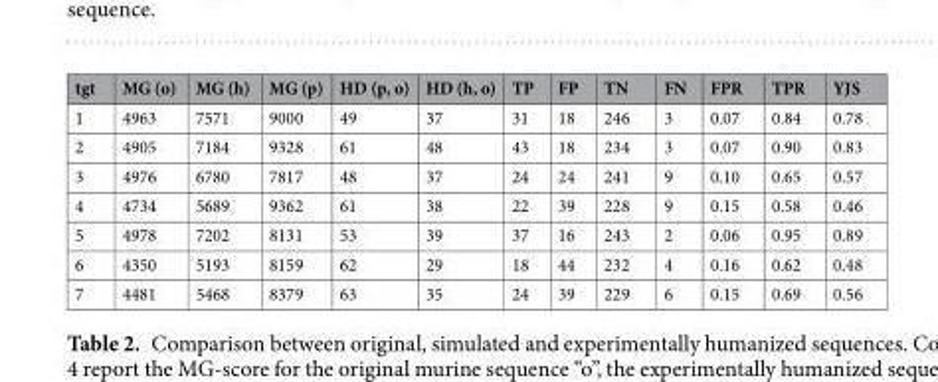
<table><thead><tr><td>tgt</td><td>MG (o)</td><td>MG (h)</td><td>MG (p)</td><td>HD (p, o)</td><td>HD (h, o)</td><td>TP</td><td>FP</td><td>TN</td><td>FN</td><td>FPR</td><td>TPR</td><td>YJS</td></tr></thead><tbody><tr><td>1</td><td>4963</td><td>7571</td><td>9000</td><td>49</td><td>37</td><td>31</td><td>18</td><td>246</td><td>3</td><td>0.07</td><td>0.84</td><td>0.78</td></tr><tr><td>2</td><td>4905</td><td>7184</td><td>9328</td><td>61</td><td>48</td><td>43</td><td>18</td><td>234</td><td>3</td><td>0.07</td><td>0.90</td><td>0.83</td></tr><tr><td>3</td><td>4976</td><td>6780</td><td>7817</td><td>48</td><td>37</td><td>24</td><td>24</td><td>241</td><td>9</td><td>0.10</td><td>0.65</td><td>0.57</td></tr><tr><td>4</td><td>4734</td><td>5689</td><td>9362</td><td>61</td><td>38</td><td>22</td><td>39</td><td>228</td><td>9</td><td>0.15</td><td>0.58</td><td>0.46</td></tr><tr><td>5</td><td>4978</td><td>7202</td><td>8131</td><td>53</td><td>39</td><td>37</td><td>16</td><td>243</td><td>2</td><td>0.06</td><td>0.95</td><td>0.89</td></tr><tr><td>6</td><td>4350</td><td>5193</td><td>8159</td><td>62</td><td>29</td><td>18</td><td>44</td><td>232</td><td>4</td><td>0.16</td><td>0.62</td><td>0.48</td></tr><tr><td>7</td><td>4481</td><td>5468</td><td>8379</td><td>63</td><td>35</td><td>24</td><td>39</td><td>229</td><td>6</td><td>0.15</td><td>0.69</td><td>0.56</td></tr></tbody></table>